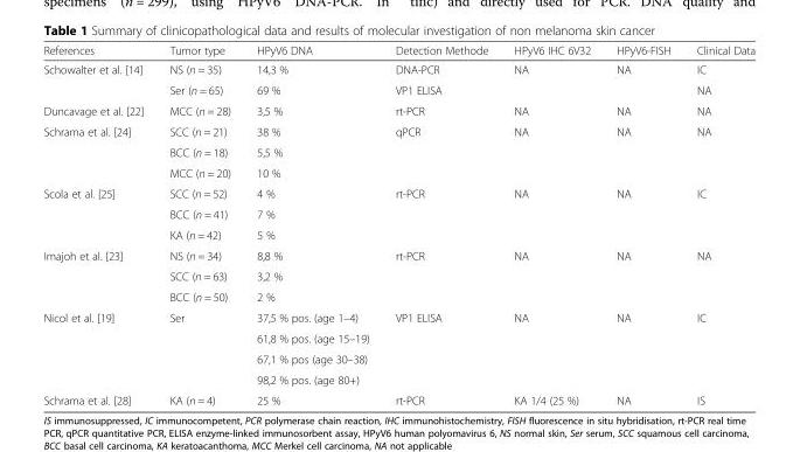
<table><thead><tr><td>References</td><td>Tumor type</td><td>HPyV6 DNA</td><td>Detection Methode</td><td>HPyV6 IHC 6V32</td><td>HPyV6-FISH</td><td>Clinical Data</td></tr></thead><tbody><tr><td rowspan="2">Schowalter et al. [14]</td><td>NS (n = 35)</td><td>14,3 %</td><td>DNA-PCR</td><td rowspan="2">NA</td><td rowspan="2">NA</td><td>IC</td></tr><tr><td>Ser (n = 65)</td><td>69 %</td><td>VP1 ELISA</td><td>NA</td></tr><tr><td>Duncavage et al. [22]</td><td>MCC (n = 28)</td><td>3,5 %</td><td>rt-PCR</td><td>NA</td><td>NA</td><td>NA</td></tr><tr><td rowspan="3">Schrama et al. [24]</td><td>SCC (n = 21)</td><td>38 %</td><td rowspan="3">qPCR</td><td rowspan="3">NA</td><td rowspan="3">NA</td><td rowspan="3">NA</td></tr><tr><td>BCC (n = 18)</td><td>5,5 %</td></tr><tr><td>MCC (n = 20)</td><td>10 %</td></tr><tr><td rowspan="3">Scola et al. [25]</td><td>SCC (n = 52)</td><td>4 %</td><td rowspan="3">rt-PCR</td><td rowspan="3">NA</td><td rowspan="3">NA</td><td rowspan="3">IC</td></tr><tr><td>BCC (n = 41)</td><td>7 %</td></tr><tr><td>KA (n = 42)</td><td>5 %</td></tr><tr><td rowspan="3">Imajoh et al. [23]</td><td>NS (n = 34)</td><td>8,8 %</td><td rowspan="3">rt-PCR</td><td rowspan="3">NA</td><td rowspan="3">NA</td><td rowspan="3">NA</td></tr><tr><td>SCC (n = 63)</td><td>3,2 %</td></tr><tr><td>BCC (n = 50)</td><td>2 %</td></tr><tr><td rowspan="4">Nicol et al. [19]</td><td rowspan="4">Ser</td><td>37,5 % pos. (age 1–4)</td><td rowspan="4">VP1 ELISA</td><td rowspan="4">NA</td><td rowspan="4">NA</td><td rowspan="4">IC</td></tr><tr><td>61,8 % pos. (age 15–19)</td></tr><tr><td>67,1 % pos (age 30–38)</td></tr><tr><td>98,2 % pos. (age 80+)</td></tr><tr><td>Schrama et al. [28]</td><td>KA (n = 4)</td><td>25 %</td><td>rt-PCR</td><td>KA 1/4 (25 %)</td><td>NA</td><td>IS</td></tr></tbody></table>